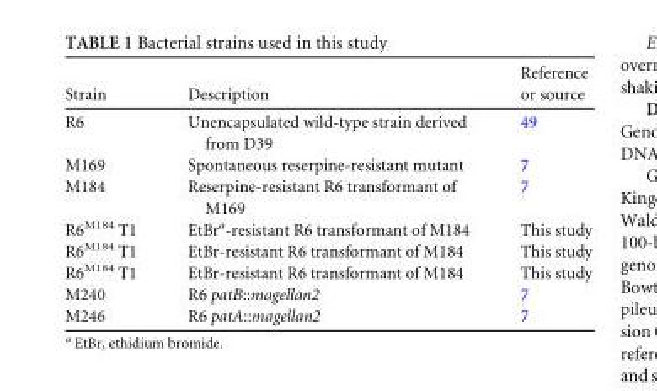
<table><thead><tr><td>Strain</td><td>Description</td><td>Reference or source</td></tr></thead><tbody><tr><td>R6</td><td>Unencapsulated wild-type strain derived from D39</td><td>49</td></tr><tr><td>M169</td><td>Spontaneous reserpine-resistant mutant</td><td>7</td></tr><tr><td>M184</td><td>Reserpine-resistant R6 transformant of M169</td><td>7</td></tr><tr><td>R6<sup>M184</sup> T1</td><td>EtBr<sup>a</sup>-resistant R6 transformant of M184</td><td>This study</td></tr><tr><td>R6<sup>M184</sup> T1</td><td>EtBr-resistant R6 transformant of M184</td><td>This study</td></tr><tr><td>R6<sup>M184</sup> T1</td><td>EtBr-resistant R6 transformant of M184</td><td>This study</td></tr><tr><td>M240</td><td>R6 patB::magellan2</td><td>7</td></tr><tr><td>M246</td><td>R6 patA::magellan2</td><td>7</td></tr></tbody></table>